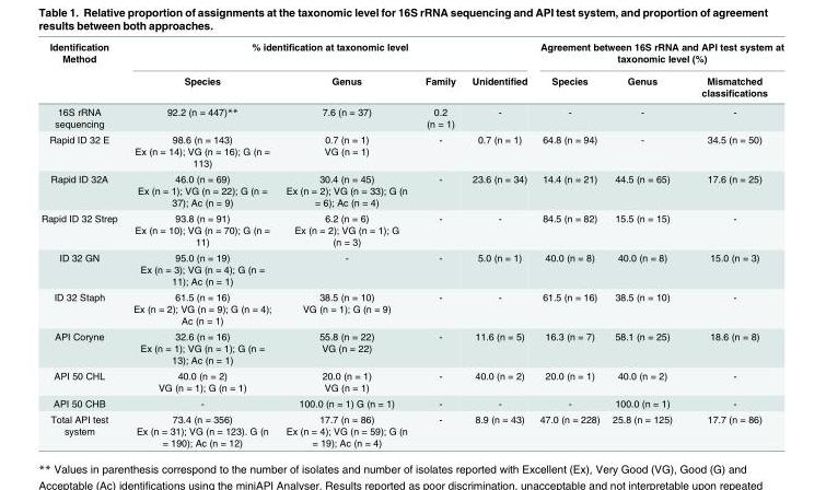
<table><thead><tr><td rowspan="2">Identification Method</td><td colspan="4">% identification at taxonomic level</td><td colspan="3">Agreement between 16S rRNA and API test system at taxonomic level (%)</td></tr><tr><td>Species</td><td>Genus</td><td>Family</td><td>Unidentified</td><td>Species</td><td>Genus</td><td>Mismatched classifications</td></tr></thead><tbody><tr><td>16S rRNA sequencing</td><td>92.2 (n = 447)**</td><td>7.6 (n = 37)</td><td>0.2 (n = 1)</td><td>-</td><td>-</td><td>-</td><td>-</td></tr><tr><td>Rapid ID 32 E</td><td>98.6 (n = 143) Ex (n = 14); VG (n = 16); G (n = 113)</td><td>0.7 (n = 1) VG (n = 1)</td><td>-</td><td>0.7 (n = 1)</td><td>64.8 (n = 94)</td><td>-</td><td>34.5 (n = 50)</td></tr><tr><td>Rapid ID 32A</td><td>46.0 (n = 69) Ex (n = 1); VG (n = 22); G (n = 37); Ac (n = 9)</td><td>30.4 (n = 45) Ex (n = 2); VG (n = 33); G (n = 6); Ac (n = 4)</td><td>-</td><td>23.6 (n = 34)</td><td>14.4 (n = 21)</td><td>44.5 (n = 65)</td><td>17.6 (n = 25)</td></tr><tr><td>Rapid ID 32 Strep</td><td>93.8 (n = 91) Ex (n = 10); VG (n = 70); G (n = 11)</td><td>6.2 (n = 6) Ex (n = 2); VG (n = 1); G (n = 3)</td><td>-</td><td>-</td><td>84.5 (n = 82)</td><td>15.5 (n = 15)</td><td>-</td></tr><tr><td>ID 32 GN</td><td>95.0 (n = 19) Ex (n = 3); VG (n = 4); G (n = 11); Ac (n = 1)</td><td>-</td><td>-</td><td>5.0 (n = 1)</td><td>40.0 (n = 8)</td><td>40.0 (n = 8)</td><td>15.0 (n = 3)</td></tr><tr><td>ID 32 Staph</td><td>61.5 (n = 16) Ex (n = 2); VG (n = 9); G (n = 4); Ac (n = 1)</td><td>38.5 (n = 10) VG (n = 1); G (n = 9)</td><td>-</td><td>-</td><td>61.5 (n = 16)</td><td>38.5 (n = 10)</td><td>-</td></tr><tr><td>API Coryne</td><td>32.6 (n = 16) Ex (n = 1); VG (n = 1); G (n = 13); Ac (n = 1)</td><td>55.8 (n = 22) VG (n = 22)</td><td>-</td><td>11.6 (n = 5)</td><td>16.3 (n = 7)</td><td>58.1 (n = 25)</td><td>18.6 (n = 8)</td></tr><tr><td>API 50 CHL</td><td>40.0 (n = 2) VG (n = 1); G (n = 1)</td><td>20.0 (n = 1) VG (n = 1)</td><td>-</td><td>40.0 (n = 2)</td><td>20.0 (n = 1)</td><td>40.0 (n = 2)</td><td>-</td></tr><tr><td>API 50 CHB</td><td>-</td><td>100.0 (n = 1) G (n = 1)</td><td>-</td><td>-</td><td>-</td><td>100.0 (n = 1)</td><td>-</td></tr><tr><td>Total API test system</td><td>73.4 (n = 356) Ex (n = 31); VG (n = 123). G (n = 190); Ac (n = 12)</td><td>17.7 (n = 86) Ex (n = 4); VG (n = 59); G (n = 19); Ac (n = 4)</td><td>-</td><td>8.9 (n = 43)</td><td>47.0 (n = 228)</td><td>25.8 (n = 125)</td><td>17.7 (n = 86)</td></tr></tbody></table>